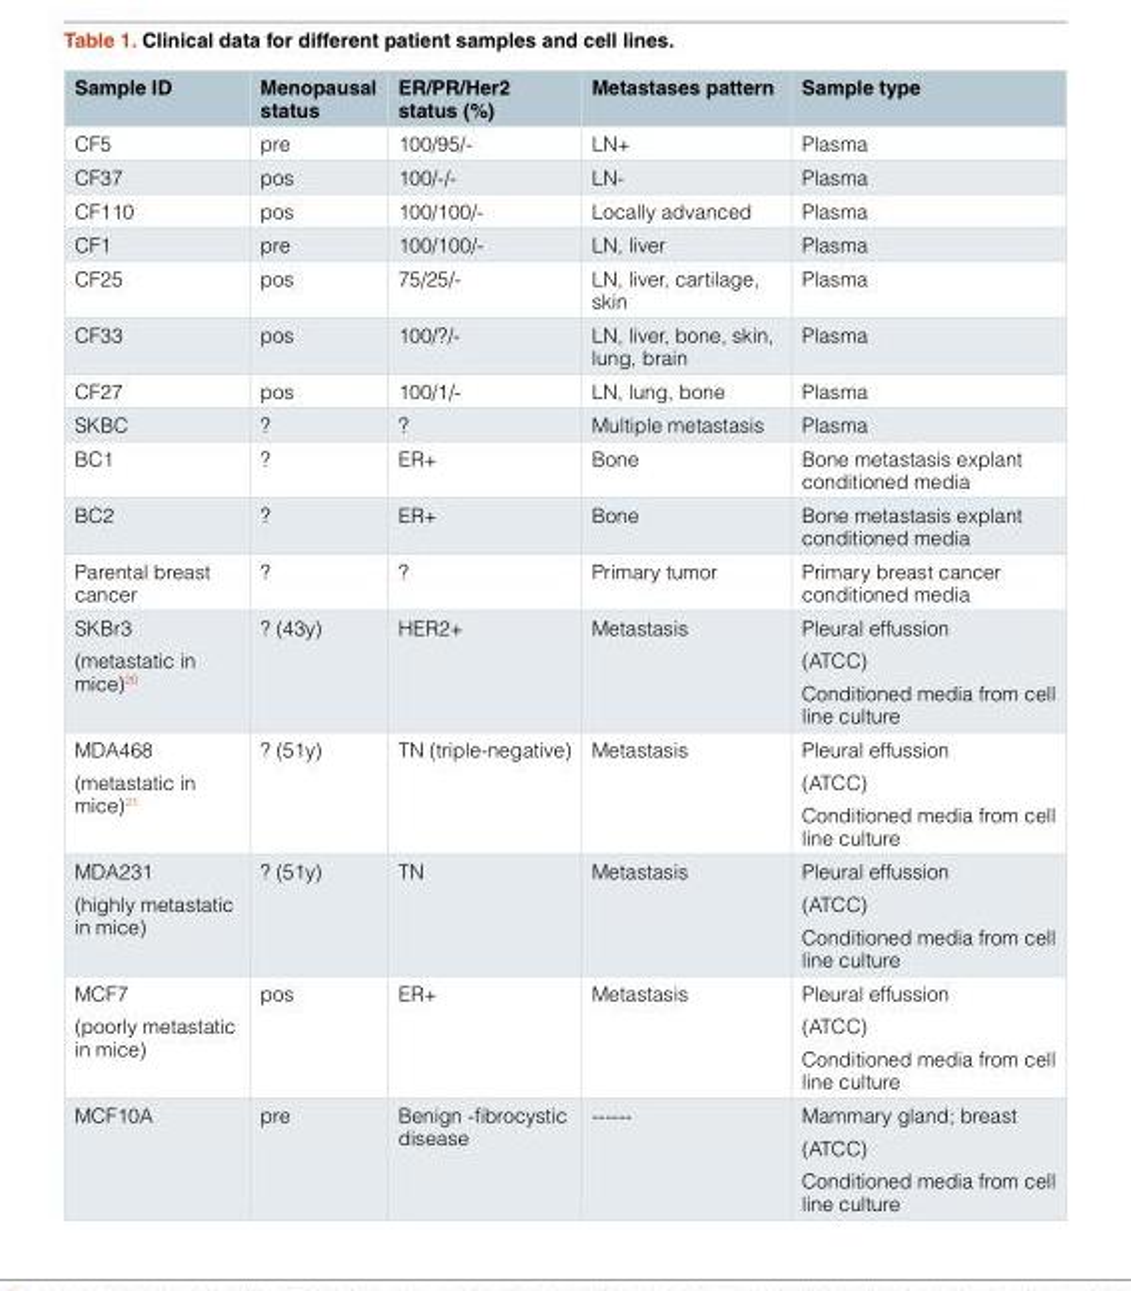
<table><thead><tr><td>Sample ID</td><td>Menopausal status</td><td>ER/PR/Her2 status (%)</td><td>Metastases pattern</td><td>Sample type</td></tr></thead><tbody><tr><td>CF5</td><td>pre</td><td>100/95/-</td><td>LN+</td><td>Plasma</td></tr><tr><td>CF37</td><td>pos</td><td>100/-/-</td><td>LN-</td><td>Plasma</td></tr><tr><td>CF110</td><td>pos</td><td>100/100/-</td><td>Locally advanced</td><td>Plasma</td></tr><tr><td>CF1</td><td>pre</td><td>100/100/-</td><td>LN, liver</td><td>Plasma</td></tr><tr><td>CF25</td><td>pos</td><td>75/25/-</td><td>LN, liver, cartilage, skin</td><td>Plasma</td></tr><tr><td>CF33</td><td>pos</td><td>100/?/-</td><td>LN, liver, bone, skin, lung, brain</td><td>Plasma</td></tr><tr><td>CF27</td><td>pos</td><td>100/1/-</td><td>LN, lung, bone</td><td>Plasma</td></tr><tr><td>SKBC</td><td>?</td><td>?</td><td>Multiple metastasis</td><td>Plasma</td></tr><tr><td>BC1</td><td>?</td><td>ER+</td><td>Bone</td><td>Bone metastasis explant conditioned media</td></tr><tr><td>BC2</td><td>?</td><td>ER+</td><td>Bone</td><td>Bone metastasis explant conditioned media</td></tr><tr><td>Parental breast cancer</td><td>?</td><td>?</td><td>Primary tumor</td><td>Primary breast cancer conditioned media</td></tr><tr><td>SKBr3 (metastatic in mice)<sup>20</sup></td><td>? (43y)</td><td>HER2+</td><td>Metastasis</td><td>Pleural effussion (ATCC) Conditioned media from cell line culture</td></tr><tr><td>MDA468 (metastatic in mice)<sup>21</sup></td><td>? (51y)</td><td>TN (triple-negative)</td><td>Metastasis</td><td>Pleural effussion (ATCC) Conditioned media from cell line culture</td></tr><tr><td>MDA231 (highly metastatic in mice)</td><td>? (51y)</td><td>TN</td><td>Metastasis</td><td>Pleural effussion (ATCC) Conditioned media from cell line culture</td></tr><tr><td>MCF7 (poorly metastatic in mice)</td><td>pos</td><td>ER+</td><td>Metastasis</td><td>Pleural effussion (ATCC) Conditioned media from cell line culture</td></tr><tr><td>MCF10A</td><td>pre</td><td>Benign -fibrocystic disease</td><td>------</td><td>Mammary gland; breast (ATCC) Conditioned media from cell line culture</td></tr></tbody></table>